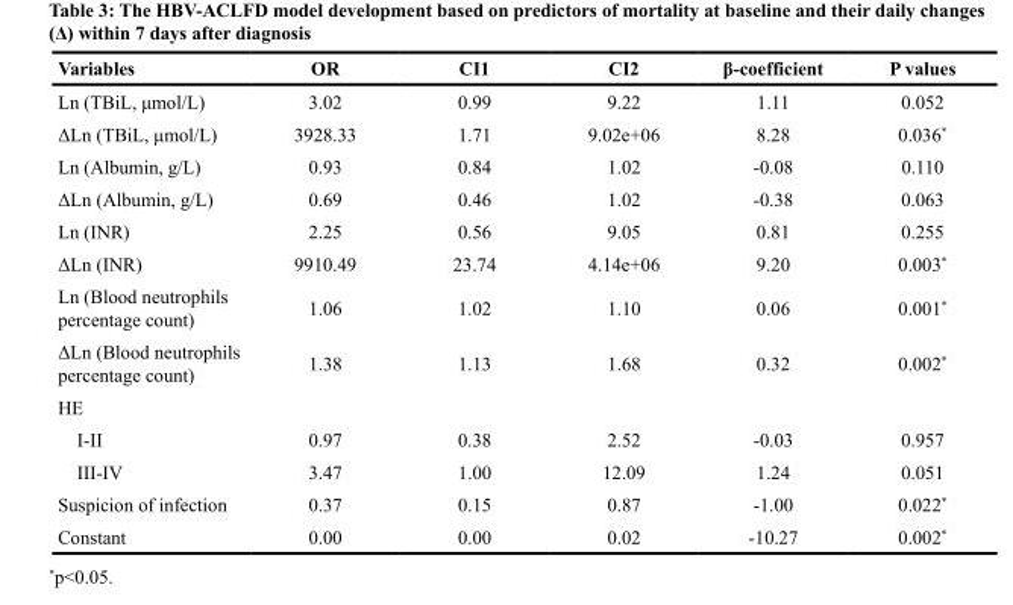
<table><thead><tr><td>Variables</td><td>OR</td><td>CI1</td><td>CI2</td><td>β-coefficient</td><td>P values</td></tr></thead><tbody><tr><td>Ln (TBiL, μmol/L)</td><td>3.02</td><td>0.99</td><td>9.22</td><td>1.11</td><td>0.052</td></tr><tr><td>ΔLn (TBiL, μmol/L)</td><td>3928.33</td><td>1.71</td><td>9.02e+06</td><td>8.28</td><td>0.036*</td></tr><tr><td>Ln (Albumin, g/L)</td><td>0.93</td><td>0.84</td><td>1.02</td><td>-0.08</td><td>0.110</td></tr><tr><td>ΔLn (Albumin, g/L)</td><td>0.69</td><td>0.46</td><td>1.02</td><td>-0.38</td><td>0.063</td></tr><tr><td>Ln (INR)</td><td>2.25</td><td>0.56</td><td>9.05</td><td>0.81</td><td>0.255</td></tr><tr><td>ΔLn (INR)</td><td>9910.49</td><td>23.74</td><td>4.14e+06</td><td>9.20</td><td>0.003*</td></tr><tr><td>Ln (Blood neutrophils percentage count)</td><td>1.06</td><td>1.02</td><td>1.10</td><td>0.06</td><td>0.001*</td></tr><tr><td>ΔLn (Blood neutrophils percentage count)</td><td>1.38</td><td>1.13</td><td>1.68</td><td>0.32</td><td>0.002*</td></tr><tr><td colspan="6">HE</td></tr><tr><td>I-II</td><td>0.97</td><td>0.38</td><td>2.52</td><td>-0.03</td><td>0.957</td></tr><tr><td>III-IV</td><td>3.47</td><td>1.00</td><td>12.09</td><td>1.24</td><td>0.051</td></tr><tr><td>Suspicion of infection</td><td>0.37</td><td>0.15</td><td>0.87</td><td>-1.00</td><td>0.022*</td></tr><tr><td>Constant</td><td>0.00</td><td>0.00</td><td>0.02</td><td>-10.27</td><td>0.002*</td></tr></tbody></table>